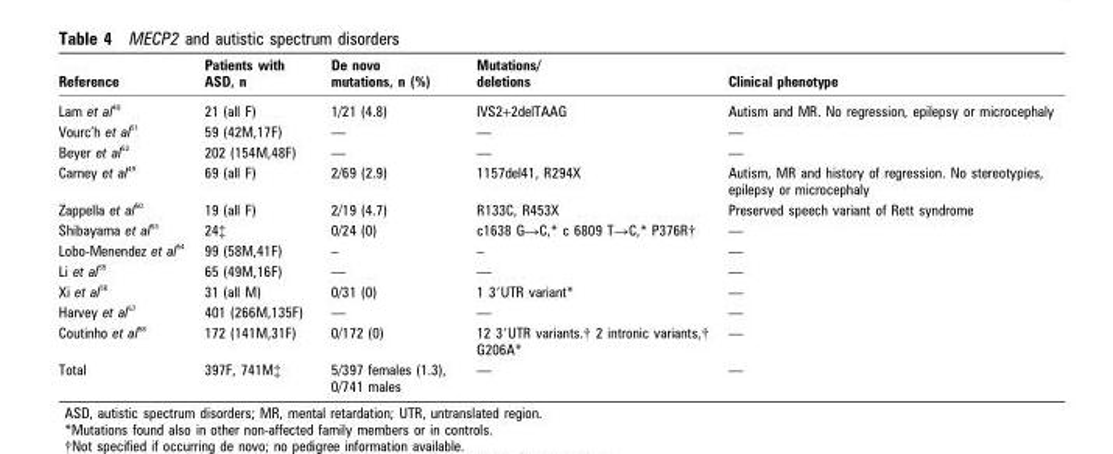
<table><thead><tr><td>Reference</td><td>Patients with ASD, n</td><td>De novo mutations, n (%)</td><td>Mutations/ deletions</td><td>Clinical phenotype</td></tr></thead><tbody><tr><td>Lam et al <sup>48</sup></td><td>21 (all F)</td><td>1/21 (4.8)</td><td>IVS2+2delTAAG</td><td>Autism and MR. No regression, epilepsy or microcephaly</td></tr><tr><td>Vourc’h et al <sup>51</sup></td><td>59 (42M,17F)</td><td>—</td><td>—</td><td>—</td></tr><tr><td>Beyer et al <sup>52</sup></td><td>202 (154M,48F)</td><td>—</td><td>—</td><td>—</td></tr><tr><td>Carney et al <sup>49</sup></td><td>69 (all F)</td><td>2/69 (2.9)</td><td>1157del41, R294X</td><td>Autism, MR and history of regression. No stereotypies, epilepsy or microcephaly</td></tr><tr><td>Zappella et al <sup>50</sup></td><td>19 (all F)</td><td>2/19 (4.7)</td><td>R133C, R453X</td><td>Preserved speech variant of Rett syndrome</td></tr><tr><td>Shibayama et al <sup>53</sup></td><td>24‡</td><td>0/24 (0)</td><td>c1638 G→C,* c 6809 T→C,* P376R†</td><td>—</td></tr><tr><td>Lobo-Menendez et al <sup>54</sup></td><td>99 (58M,41F)</td><td>–</td><td>–</td><td>—</td></tr><tr><td>Li et al <sup>55</sup></td><td>65 (49M,16F)</td><td>—</td><td>—</td><td>—</td></tr><tr><td>Xi et al <sup>56</sup></td><td>31 (all M)</td><td>0/31 (0)</td><td>1 3′UTR variant*</td><td>—</td></tr><tr><td>Harvey et al <sup>57</sup></td><td>401 (266M,135F)</td><td>—</td><td>—</td><td>—</td></tr><tr><td>Coutinho et al <sup>58</sup></td><td>172 (141M,31F)</td><td>0/172 (0)</td><td>12 3′UTR variants.† 2 intronic variants,† G206A*</td><td>—</td></tr><tr><td>Total</td><td>397F, 741M‡</td><td>5/397 females (1.3), 0/741 males</td><td>—</td><td>—</td></tr></tbody></table>